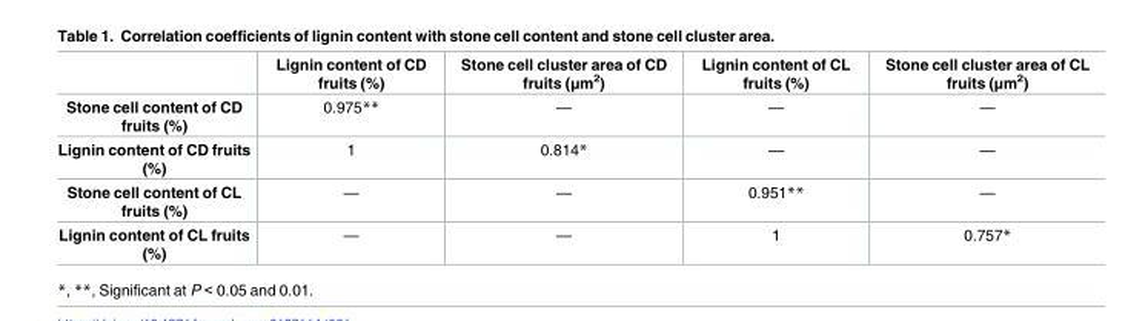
<table><thead><tr><td></td><td>Lignin content of CD fruits (%)</td><td>Stone cell cluster area of CD fruits (μm<sup>2</sup>)</td><td>Lignin content of CL fruits (%)</td><td>Stone cell cluster area of CL fruits (μm<sup>2</sup>)</td></tr></thead><tbody><tr><td>Stone cell content of CD fruits (%)</td><td>0.975**</td><td>—</td><td>—</td><td>—</td></tr><tr><td>Lignin content of CD fruits (%)</td><td>1</td><td>0.814*</td><td>—</td><td>—</td></tr><tr><td>Stone cell content of CL fruits (%)</td><td>—</td><td>—</td><td>0.951**</td><td>—</td></tr><tr><td>Lignin content of CL fruits (%)</td><td>—</td><td>—</td><td>1</td><td>0.757*</td></tr></tbody></table>